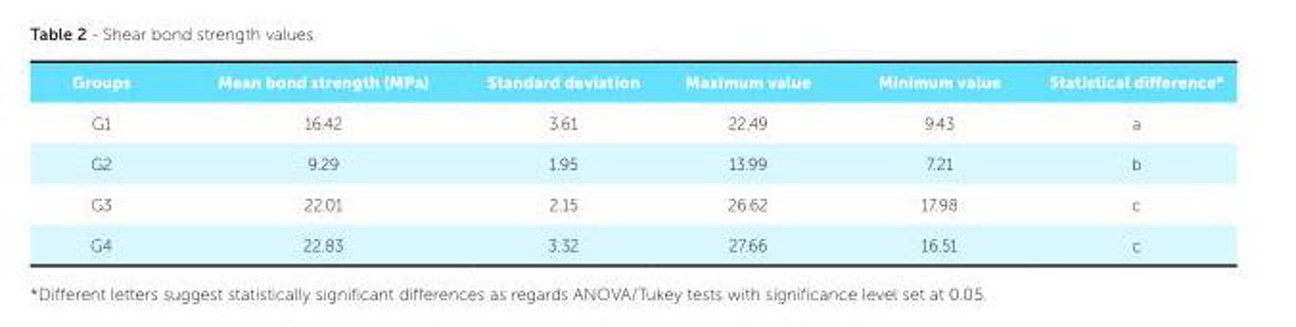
<table><thead><tr><td>Groups</td><td>Mean bond strength (MPa)</td><td>Standard deviation</td><td>Maximum value</td><td>Minimum value</td><td>Statistical difference*</td></tr></thead><tbody><tr><td>G1</td><td>16.42</td><td>3.61</td><td>22.49</td><td>9.43</td><td>a</td></tr><tr><td>G2</td><td>9.29</td><td>1.95</td><td>13.99</td><td>7.21</td><td>b</td></tr><tr><td>G3</td><td>22.01</td><td>2.15</td><td>26.62</td><td>17.98</td><td>c</td></tr><tr><td>G4</td><td>22.83</td><td>3.32</td><td>27.66</td><td>16.51</td><td>c</td></tr></tbody></table>